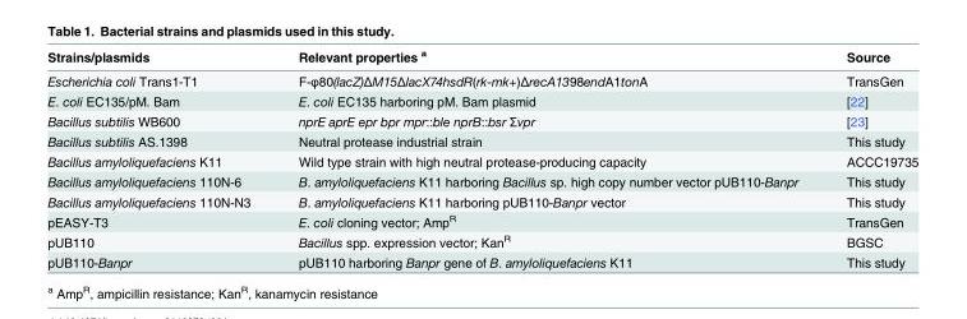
<table><thead><tr><td>Strains/plasmids</td><td>Relevant properties <sup>a</sup></td><td>Source</td></tr></thead><tbody><tr><td>Escherichia coli Trans1-T1</td><td>F-φ80(lacZ)ΔM15ΔlacX74hsdR(rk-mk+)ΔrecA1398endA1tonA</td><td>TransGen</td></tr><tr><td>E. coli EC135/pM. Bam</td><td>E. coli EC135 harboring pM. Bam plasmid</td><td>[22]</td></tr><tr><td>Bacillus subtilis WB600</td><td>nprE aprE epr bpr mpr::ble nprB::bsr Ʃvpr</td><td>[23]</td></tr><tr><td>Bacillus subtilis AS.1398</td><td>Neutral protease industrial strain</td><td>This study</td></tr><tr><td>Bacillus amyloliquefaciens K11</td><td>Wild type strain with high neutral protease-producing capacity</td><td>ACCC19735</td></tr><tr><td>Bacillus amyloliquefaciens 110N-6</td><td>B. amyloliquefaciens K11 harboring Bacillus sp. high copy number vector pUB110-Banpr</td><td>This study</td></tr><tr><td>Bacillus amyloliquefaciens 110N-N3</td><td>B. amyloliquefaciens K11 harboring pUB110-Banpr vector</td><td>This study</td></tr><tr><td>pEASY-T3</td><td>E. coli cloning vector; Amp<sup>R</sup></td><td>TransGen</td></tr><tr><td>pUB110</td><td>Bacillus spp. expression vector; Kan<sup>R</sup></td><td>BGSC</td></tr><tr><td>pUB110-Banpr</td><td>pUB110 harboring Banpr gene of B. amyloliquefaciens K11</td><td>This study</td></tr></tbody></table>